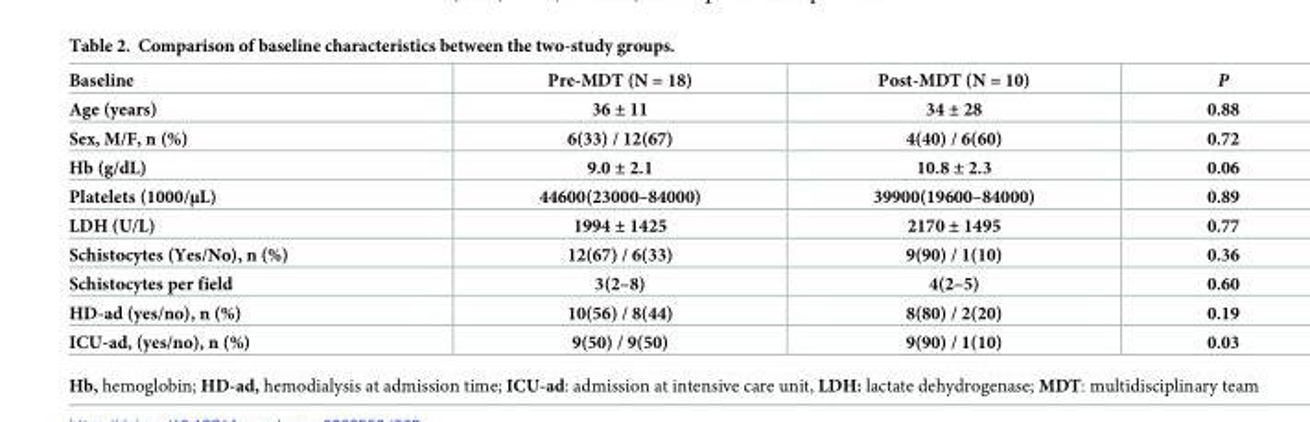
<table><thead><tr><td>Baseline</td><td>Pre-MDT (N = 18)</td><td>Post-MDT (N = 10)</td><td>P</td></tr></thead><tbody><tr><td>Age (years)</td><td>36 ± 11</td><td>34 ± 28</td><td>0.88</td></tr><tr><td>Sex, M/F, n (%)</td><td>6(33) / 12(67)</td><td>4(40) / 6(60)</td><td>0.72</td></tr><tr><td>Hb (g/dL)</td><td>9.0 ± 2.1</td><td>10.8 ± 2.3</td><td>0.06</td></tr><tr><td>Platelets (1000/μL)</td><td>44600(23000–84000)</td><td>39900(19600–84000)</td><td>0.89</td></tr><tr><td>LDH (U/L)</td><td>1994 ± 1425</td><td>2170 ± 1495</td><td>0.77</td></tr><tr><td>Schistocytes (Yes/No), n (%)</td><td>12(67) / 6(33)</td><td>9(90) / 1(10)</td><td>0.36</td></tr><tr><td>Schistocytes per field</td><td>3(2–8)</td><td>4(2–5)</td><td>0.60</td></tr><tr><td>HD-ad (yes/no), n (%)</td><td>10(56) / 8(44)</td><td>8(80) / 2(20)</td><td>0.19</td></tr><tr><td>ICU-ad, (yes/no), n (%)</td><td>9(50) / 9(50)</td><td>9(90) / 1(10)</td><td>0.03</td></tr></tbody></table>